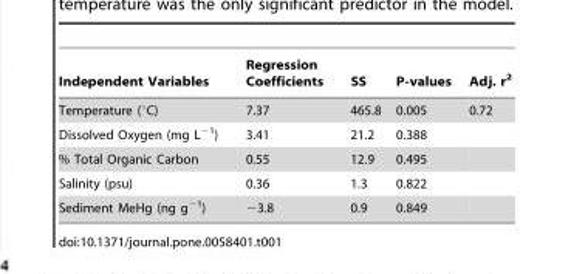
<table><thead><tr><td>Independent Variables</td><td>Regression Coefficients</td><td>SS</td><td>P-values</td><td>Adj. r<sup>2</sup></td></tr></thead><tbody><tr><td>Temperature (°C)</td><td>7.37</td><td>465.8</td><td>0.005</td><td>0.72</td></tr><tr><td>Dissolved Oxygen (mg L<sup>−1</sup>)</td><td>3.41</td><td>21.2</td><td>0.388</td><td></td></tr><tr><td>% Total Organic Carbon</td><td>0.55</td><td>12.9</td><td>0.495</td><td></td></tr><tr><td>Salinity (psu)</td><td>0.36</td><td>1.3</td><td>0.822</td><td></td></tr><tr><td>Sediment MeHg (ng g<sup>−1</sup>)</td><td>−3.8</td><td>0.9</td><td>0.849</td><td></td></tr></tbody></table>